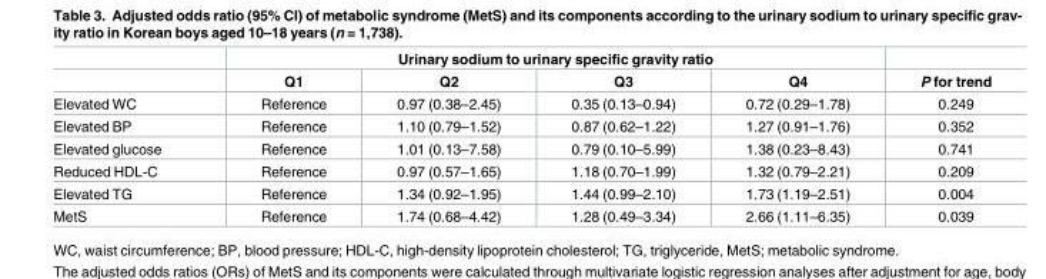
<table><thead><tr><td rowspan="2"></td><td colspan="4">Urinary sodium to urinary specific gravity ratio</td><td rowspan="2">P for trend</td></tr><tr><td>Q1</td><td>Q2</td><td>Q3</td><td>Q4</td></tr></thead><tbody><tr><td>Elevated WC</td><td>Reference</td><td>0.97 (0.38–2.45)</td><td>0.35 (0.13–0.94)</td><td>0.72 (0.29–1.78)</td><td>0.249</td></tr><tr><td>Elevated BP</td><td>Reference</td><td>1.10 (0.79–1.52)</td><td>0.87 (0.62–1.22)</td><td>1.27 (0.91–1.76)</td><td>0.352</td></tr><tr><td>Elevated glucose</td><td>Reference</td><td>1.01 (0.13–7.58)</td><td>0.79 (0.10–5.99)</td><td>1.38 (0.23–8.43)</td><td>0.741</td></tr><tr><td>Reduced HDL-C</td><td>Reference</td><td>0.97 (0.57–1.65)</td><td>1.18 (0.70–1.99)</td><td>1.32 (0.79–2.21)</td><td>0.209</td></tr><tr><td>Elevated TG</td><td>Reference</td><td>1.34 (0.92–1.95)</td><td>1.44 (0.99–2.10)</td><td>1.73 (1.19–2.51)</td><td>0.004</td></tr><tr><td>MetS</td><td>Reference</td><td>1.74 (0.68–4.42)</td><td>1.28 (0.49–3.34)</td><td>2.66 (1.11–6.35)</td><td>0.039</td></tr></tbody></table>